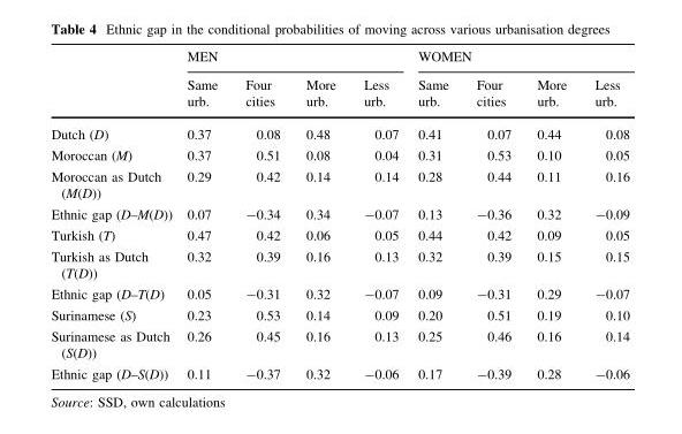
<table><thead><tr><td rowspan="2"></td><td colspan="4">MEN</td><td colspan="4">WOMEN</td></tr><tr><td>Same urb.</td><td>Four cities</td><td>More urb.</td><td>Less urb.</td><td>Same urb.</td><td>Four cities</td><td>More urb.</td><td>Less urb.</td></tr></thead><tbody><tr><td>Dutch (D)</td><td>0.37</td><td>0.08</td><td>0.48</td><td>0.07</td><td>0.41</td><td>0.07</td><td>0.44</td><td>0.08</td></tr><tr><td>Moroccan (M)</td><td>0.37</td><td>0.51</td><td>0.08</td><td>0.04</td><td>0.31</td><td>0.53</td><td>0.10</td><td>0.05</td></tr><tr><td>Moroccan as Dutch (M(D))</td><td>0.29</td><td>0.42</td><td>0.14</td><td>0.14</td><td>0.28</td><td>0.44</td><td>0.11</td><td>0.16</td></tr><tr><td>Ethnic gap (D–M(D))</td><td>0.07</td><td>-0.34</td><td>0.34</td><td>-0.07</td><td>0.13</td><td>-0.36</td><td>0.32</td><td>-0.09</td></tr><tr><td>Turkish (T)</td><td>0.47</td><td>0.42</td><td>0.06</td><td>0.05</td><td>0.44</td><td>0.42</td><td>0.09</td><td>0.05</td></tr><tr><td>Turkish as Dutch (T(D))</td><td>0.32</td><td>0.39</td><td>0.16</td><td>0.13</td><td>0.32</td><td>0.39</td><td>0.15</td><td>0.15</td></tr><tr><td>Ethnic gap (D–T(D)</td><td>0.05</td><td>-0.31</td><td>0.32</td><td>-0.07</td><td>0.09</td><td>-0.31</td><td>0.29</td><td>-0.07</td></tr><tr><td>Surinamese (S)</td><td>0.23</td><td>0.53</td><td>0.14</td><td>0.09</td><td>0.20</td><td>0.51</td><td>0.19</td><td>0.10</td></tr><tr><td>Surinamese as Dutch (S(D))</td><td>0.26</td><td>0.45</td><td>0.16</td><td>0.13</td><td>0.25</td><td>0.46</td><td>0.16</td><td>0.14</td></tr><tr><td>Ethnic gap (D–S(D))</td><td>0.11</td><td>-0.37</td><td>0.32</td><td>-0.06</td><td>0.17</td><td>-0.39</td><td>0.28</td><td>-0.06</td></tr></tbody></table>